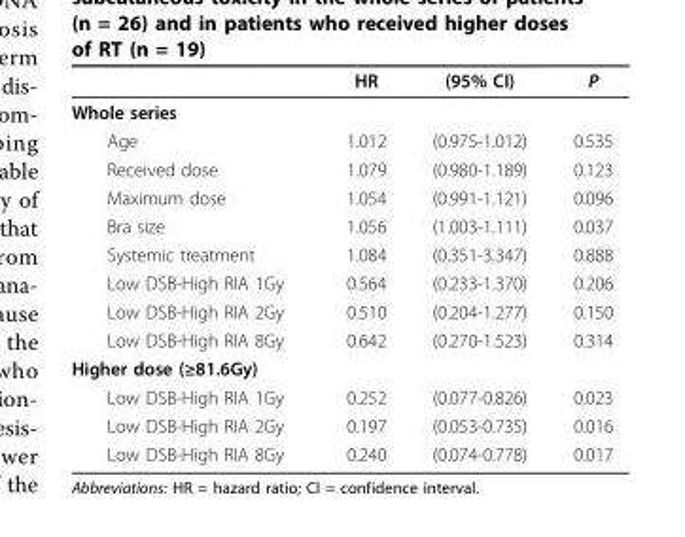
<table><thead><tr><td></td><td>HR</td><td>(95% CI)</td><td>P</td></tr></thead><tbody><tr><td colspan="4">Whole series</td></tr><tr><td>Age</td><td>1.012</td><td>(0.975-1.012)</td><td>0.535</td></tr><tr><td>Received dose</td><td>1.079</td><td>(0.980-1.189)</td><td>0.123</td></tr><tr><td>Maximum dose</td><td>1.054</td><td>(0.991-1.121)</td><td>0.096</td></tr><tr><td>Bra size</td><td>1.056</td><td>(1.003-1.111)</td><td>0.037</td></tr><tr><td>Systemic treatment</td><td>1.084</td><td>(0.351-3.347)</td><td>0.888</td></tr><tr><td>Low DSB-High RIA 1Gy</td><td>0.564</td><td>(0.233-1.370)</td><td>0.206</td></tr><tr><td>Low DSB-High RIA 2Gy</td><td>0.510</td><td>(0.204-1.277)</td><td>0.150</td></tr><tr><td>Low DSB-High RIA 8Gy</td><td>0.642</td><td>(0.270-1.523)</td><td>0.314</td></tr><tr><td colspan="4">Higher dose (≥81.6Gy)</td></tr><tr><td>Low DSB-High RIA 1Gy</td><td>0.252</td><td>(0.077-0.826)</td><td>0.023</td></tr><tr><td>Low DSB-High RIA 2Gy</td><td>0.197</td><td>(0.053-0.735)</td><td>0.016</td></tr><tr><td>Low DSB-High RIA 8Gy</td><td>0.240</td><td>(0.074-0.778)</td><td>0.017</td></tr></tbody></table>